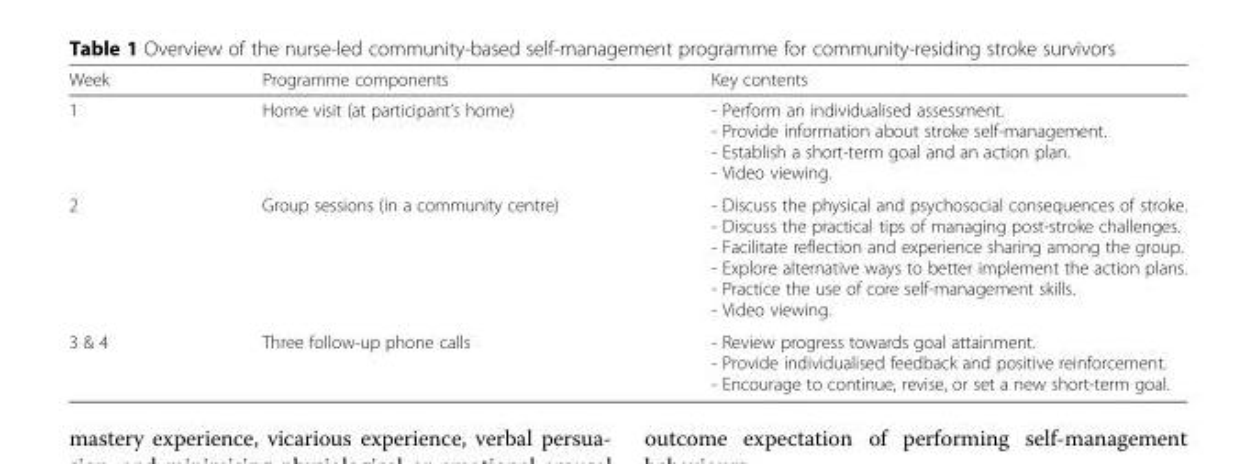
<table><thead><tr><td>Week</td><td>Programme components</td><td>Key contents</td></tr></thead><tbody><tr><td>1</td><td>Home visit (at participant’s home)</td><td>- Perform an individualised assessment. - Provide information about stroke self-management. - Establish a short-term goal and an action plan. - Video viewing.</td></tr><tr><td>2</td><td>Group sessions (in a community centre)</td><td>- Discuss the physical and psychosocial consequences of stroke. - Discuss the practical tips of managing post-stroke challenges. - Facilitate reflection and experience sharing among the group. - Explore alternative ways to better implement the action plans. - Practice the use of core self-management skills. - Video viewing.</td></tr><tr><td>3 &amp; 4</td><td>Three follow-up phone calls</td><td>- Review progress towards goal attainment. - Provide individualised feedback and positive reinforcement. - Encourage to continue, revise, or set a new short-term goal.</td></tr></tbody></table>